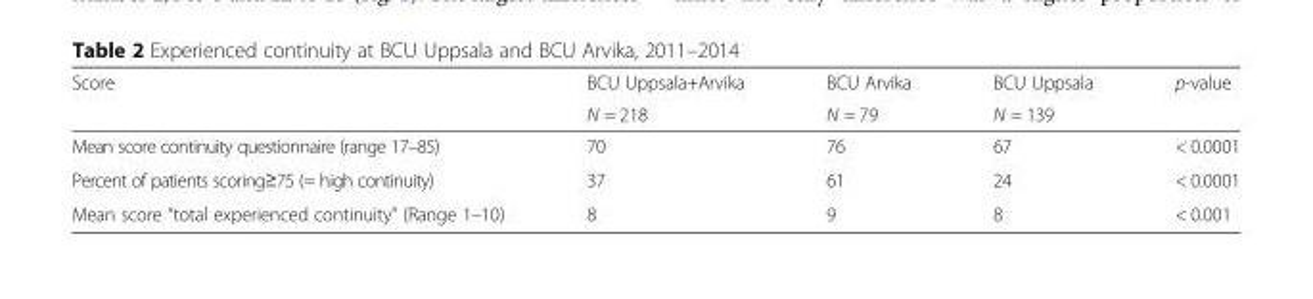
<table><thead><tr><td rowspan="2">Score</td><td rowspan="2">BCU Uppsala+Arvika N = 218</td><td rowspan="2">BCU Arvika N = 79</td><td rowspan="2">BCU Uppsala N = 139</td><td rowspan="2">p-value</td></tr><tr></tr></thead><tbody><tr><td>Mean score continuity questionnaire (range 17–85)</td><td>70</td><td>76</td><td>67</td><td>&lt; 0.0001</td></tr><tr><td>Percent of patients scoring≥75 (= high continuity)</td><td>37</td><td>61</td><td>24</td><td>&lt; 0.0001</td></tr><tr><td>Mean score “total experienced continuity” (Range 1–10)</td><td>8</td><td>9</td><td>8</td><td>&lt; 0.001</td></tr></tbody></table>